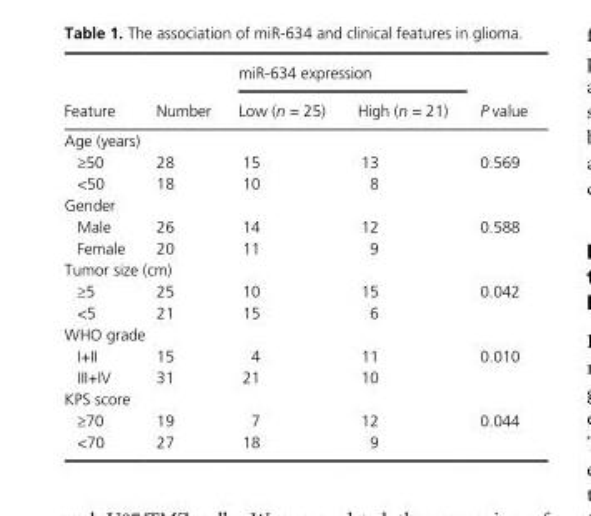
<table><thead><tr><td rowspan="2">Feature</td><td rowspan="2">Number</td><td colspan="2">miR- 634 expression</td><td rowspan="2">P value</td></tr><tr><td>Low (n = 25)</td><td>High (n = 21)</td></tr></thead><tbody><tr><td colspan="5">Age (years)</td></tr><tr><td>≥50</td><td>28</td><td>15</td><td>13</td><td rowspan="2">0.569</td></tr><tr><td>&lt;50</td><td>18</td><td>10</td><td>8</td></tr><tr><td colspan="5">Gender</td></tr><tr><td>Male</td><td>26</td><td>14</td><td>12</td><td rowspan="2">0.588</td></tr><tr><td>Female</td><td>20</td><td>11</td><td>9</td></tr><tr><td colspan="5">Tumor size (cm)</td></tr><tr><td>≥5</td><td>25</td><td>10</td><td>15</td><td rowspan="2">0.042</td></tr><tr><td>&lt;5</td><td>21</td><td>15</td><td>6</td></tr><tr><td colspan="5">WHO grade</td></tr><tr><td>I+II</td><td>15</td><td>4</td><td>11</td><td rowspan="2">0.010</td></tr><tr><td>III+IV</td><td>31</td><td>21</td><td>10</td></tr><tr><td colspan="5">KPS score</td></tr><tr><td>≥70</td><td>19</td><td>7</td><td>12</td><td rowspan="2">0.044</td></tr><tr><td>&lt;70</td><td>27</td><td>18</td><td>9</td></tr></tbody></table>